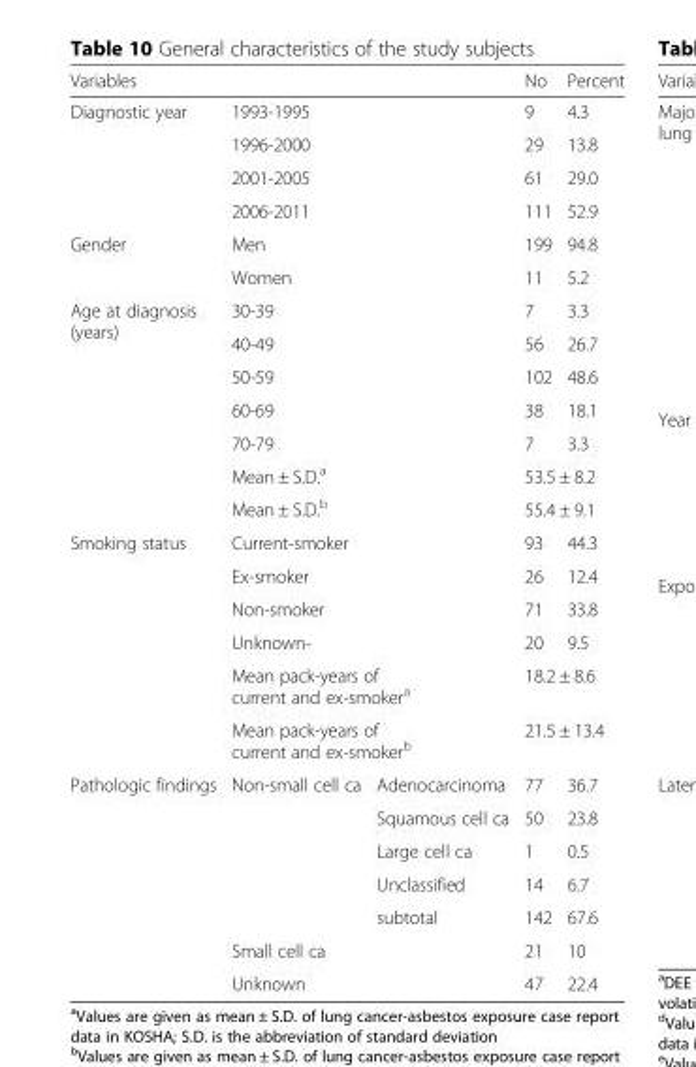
<table><thead><tr><td>Variables</td><td></td><td></td><td>No</td><td>Percent</td></tr></thead><tbody><tr><td rowspan="4">Diagnostic year</td><td colspan="2">1993-1995</td><td>9</td><td>4.3</td></tr><tr><td colspan="2">1996-2000</td><td>29</td><td>13.8</td></tr><tr><td colspan="2">2001-2005</td><td>61</td><td>29.0</td></tr><tr><td colspan="2">2006-2011</td><td>111</td><td>52.9</td></tr><tr><td rowspan="2">Gender</td><td colspan="2">Men</td><td>199</td><td>94.8</td></tr><tr><td colspan="2">Women</td><td>11</td><td>5.2</td></tr><tr><td rowspan="7">Age at diagnosis (years)</td><td colspan="2">30-39</td><td>7</td><td>3.3</td></tr><tr><td colspan="2">40-49</td><td>56</td><td>26.7</td></tr><tr><td colspan="2">50-59</td><td>102</td><td>48.6</td></tr><tr><td colspan="2">60-69</td><td>38</td><td>18.1</td></tr><tr><td colspan="2">70-79</td><td>7</td><td>3.3</td></tr><tr><td colspan="2">Mean ± S.D.<sup>a</sup></td><td colspan="2">53.5 ± 8.2</td></tr><tr><td colspan="2">Mean ± S.D.<sup>b</sup></td><td colspan="2">55.4 ± 9.1</td></tr><tr><td rowspan="6">Smoking status</td><td colspan="2">Current-smoker</td><td>93</td><td>44.3</td></tr><tr><td colspan="2">Ex-smoker</td><td>26</td><td>12.4</td></tr><tr><td colspan="2">Non-smoker</td><td>71</td><td>33.8</td></tr><tr><td colspan="2">Unknown-</td><td>20</td><td>9.5</td></tr><tr><td colspan="2">Mean pack-years of current and ex-smoker<sup>a</sup></td><td colspan="2">18.2 ± 8.6</td></tr><tr><td colspan="2">Mean pack-years of current and ex-smoker<sup>b</sup></td><td colspan="2">21.5 ± 13.4</td></tr><tr><td rowspan="7">Pathologic findings</td><td rowspan="4">Non-small cell ca</td><td>Adenocarcinoma</td><td>77</td><td>36.7</td></tr><tr><td>Squamous cell ca</td><td>50</td><td>23.8</td></tr><tr><td>Large cell ca</td><td>1</td><td>0.5</td></tr><tr><td>Unclassified</td><td>14</td><td>6.7</td></tr><tr><td></td><td>subtotal</td><td>142</td><td>67.6</td></tr><tr><td colspan="2">Small cell ca</td><td>21</td><td>10</td></tr><tr><td colspan="2">Unknown</td><td>47</td><td>22.4</td></tr></tbody></table>